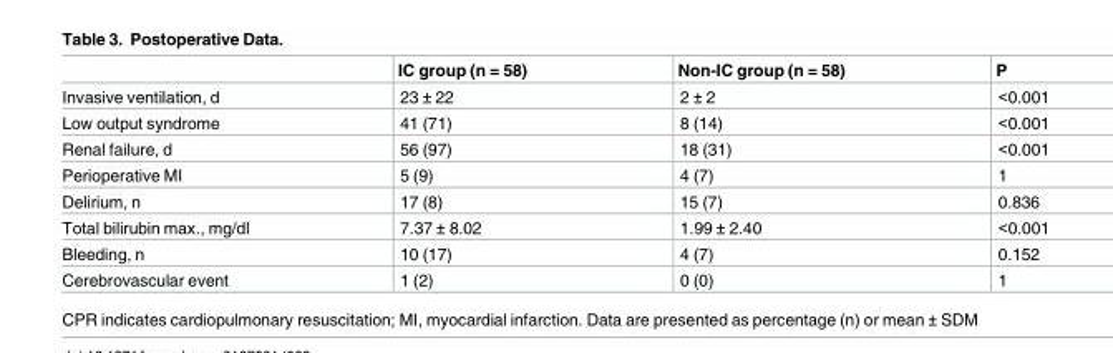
<table><thead><tr><td></td><td>IC group (n = 58)</td><td>Non-IC group (n = 58)</td><td>P</td></tr></thead><tbody><tr><td>Invasive ventilation, d</td><td>23 ± 22</td><td>2 ± 2</td><td>&lt;0.001</td></tr><tr><td>Low output syndrome</td><td>41 (71)</td><td>8 (14)</td><td>&lt;0.001</td></tr><tr><td>Renal failure, d</td><td>56 (97)</td><td>18 (31)</td><td>&lt;0.001</td></tr><tr><td>Perioperative MI</td><td>5 (9)</td><td>4 (7)</td><td>1</td></tr><tr><td>Delirium, n</td><td>17 (8)</td><td>15 (7)</td><td>0.836</td></tr><tr><td>Total bilirubin max., mg/dl</td><td>7.37 ± 8.02</td><td>1.99 ± 2.40</td><td>&lt;0.001</td></tr><tr><td>Bleeding, n</td><td>10 (17)</td><td>4 (7)</td><td>0.152</td></tr><tr><td>Cerebrovascular event</td><td>1 (2)</td><td>0 (0)</td><td>1</td></tr></tbody></table>